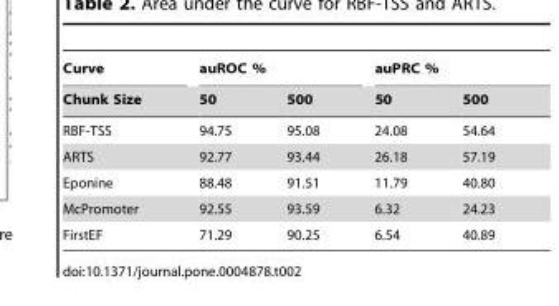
<table><thead><tr><td rowspan="2">Curve Chunk Size</td><td colspan="2">auROC %</td><td colspan="2">auPRC %</td></tr><tr><td>50</td><td>500</td><td>50</td><td>500</td></tr></thead><tbody><tr><td>RBF-TSS</td><td>94.75</td><td>95.08</td><td>24.08</td><td>54.64</td></tr><tr><td>ARTS</td><td>92.77</td><td>93.44</td><td>26.18</td><td>57.19</td></tr><tr><td>Eponine</td><td>88.48</td><td>91.51</td><td>11.79</td><td>40.80</td></tr><tr><td>McPromoter</td><td>92.55</td><td>93.59</td><td>6.32</td><td>24.23</td></tr><tr><td>FirstEF</td><td>71.29</td><td>90.25</td><td>6.54</td><td>40.89</td></tr></tbody></table>